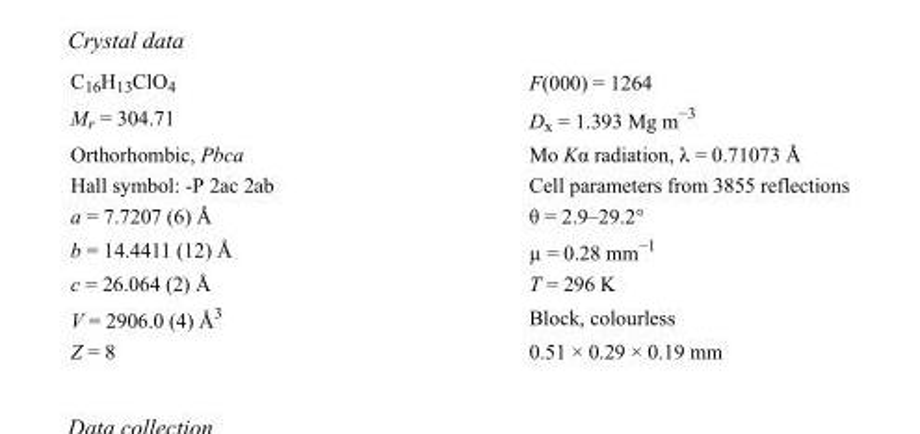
<table><tbody><tr><td>C<sub>16</sub>H<sub>13</sub>ClO<sub>4</sub></td><td>F(000) = 1264</td></tr><tr><td>M<sub>r</sub> = 304.71</td><td>D<sub>x</sub> = 1.393 Mg m<sup>−3</sup></td></tr><tr><td>Orthorhombic, Pbca</td><td>Mo Kα radiation, λ = 0.71073 Å</td></tr><tr><td>Hall symbol: -P 2ac 2ab</td><td>Cell parameters from 3855 reflections</td></tr><tr><td>a = 7.7207 (6) Å</td><td>θ = 2.9–29.2°</td></tr><tr><td>b = 14.4411 (12) Å</td><td>µ = 0.28 mm<sup>−1</sup></td></tr><tr><td>c = 26.064 (2) Å</td><td>T = 296 K</td></tr><tr><td>V = 2906.0 (4) Å<sup>3</sup></td><td>Block, colourless</td></tr><tr><td>Z = 8</td><td>0.51 × 0.29 × 0.19 mm</td></tr></tbody></table>